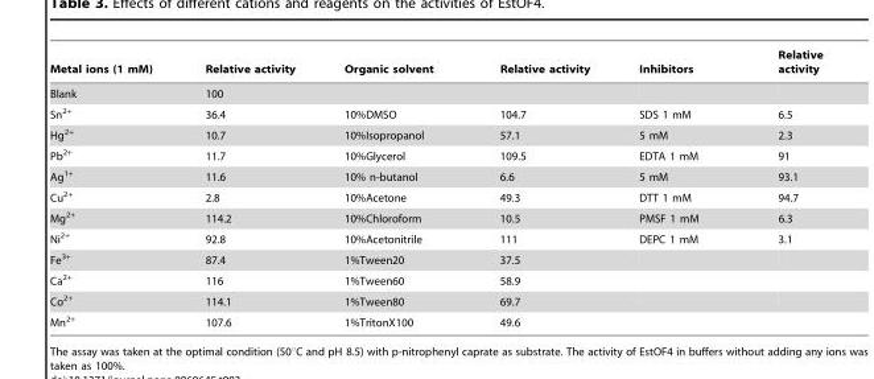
<table><thead><tr><td>Metal ions (1 mM)</td><td>Relative activity</td><td>Organic solvent</td><td>Relative activity</td><td>Inhibitors</td><td>Relative activity</td></tr></thead><tbody><tr><td>Blank</td><td>100</td><td></td><td></td><td></td><td></td></tr><tr><td>Sn<sup>2+</sup></td><td>36.4</td><td>10%DMSO</td><td>104.7</td><td>SDS 1 mM</td><td>6.5</td></tr><tr><td>Hg<sup>2+</sup></td><td>10.7</td><td>10%Isopropanol</td><td>57.1</td><td>5 mM</td><td>2.3</td></tr><tr><td>Pb<sup>2+</sup></td><td>11.7</td><td>10%Glycerol</td><td>109.5</td><td>EDTA 1 mM</td><td>91</td></tr><tr><td>Ag<sup>1+</sup></td><td>11.6</td><td>10% n-butanol</td><td>6.6</td><td>5 mM</td><td>93.1</td></tr><tr><td>Cu<sup>2+</sup></td><td>2.8</td><td>10%Acetone</td><td>49.3</td><td>DTT 1 mM</td><td>94.7</td></tr><tr><td>Mg<sup>2+</sup></td><td>114.2</td><td>10%Chloroform</td><td>10.5</td><td>PMSF 1 mM</td><td>6.3</td></tr><tr><td>Ni<sup>2+</sup></td><td>92.8</td><td>10%Acetonitrile</td><td>111</td><td>DEPC 1 mM</td><td>3.1</td></tr><tr><td>Fe<sup>3+</sup></td><td>87.4</td><td>1%Tween20</td><td>37.5</td><td></td><td></td></tr><tr><td>Ca<sup>2+</sup></td><td>116</td><td>1%Tween60</td><td>58.9</td><td></td><td></td></tr><tr><td>Co<sup>2+</sup></td><td>114.1</td><td>1%Tween80</td><td>69.7</td><td></td><td></td></tr><tr><td>Mn<sup>2+</sup></td><td>107.6</td><td>1%TritonX100</td><td>49.6</td><td></td><td></td></tr></tbody></table>